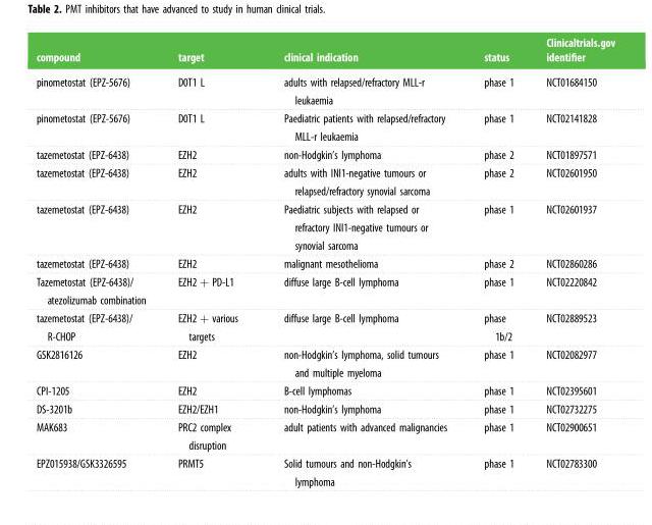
<table><thead><tr><td>compound</td><td>target</td><td>clinical indication</td><td>status</td><td>Clinicaltrials.gov identifier</td></tr></thead><tbody><tr><td>pinometostat (EPZ-5676)</td><td>D0T1 L</td><td>adults with relapsed/refractory MLL-r leukaemia</td><td>phase 1</td><td>NCT01684150</td></tr><tr><td>pinometostat (EPZ-5676)</td><td>D0T1 L</td><td>Paediatric patients with relapsed/refractory MLL-r leukaemia</td><td>phase 1</td><td>NCT02141828</td></tr><tr><td>tazemetostat (EPZ-6438)</td><td>EZH2</td><td>non-Hodgkin’s lymphoma</td><td>phase 2</td><td>NCT01897571</td></tr><tr><td>tazemetostat (EPZ-6438)</td><td>EZH2</td><td>adults with INI1-negative tumours or relapsed/refractory synovial sarcoma</td><td>phase 2</td><td>NCT02601950</td></tr><tr><td>tazemetostat (EPZ-6438)</td><td>EZH2</td><td>Paediatric subjects with relapsed or refractory INI1-negative tumours or synovial sarcoma</td><td>phase 1</td><td>NCT02601937</td></tr><tr><td>tazemetostat (EPZ-6438)</td><td>EZH2</td><td>malignant mesothelioma</td><td>phase 2</td><td>NCT02860286</td></tr><tr><td>Tazemetostat (EPZ-6438)/ atezolizumab combination</td><td>EZH2 + PD-L1</td><td>diffuse large B-cell lymphoma</td><td>phase 1</td><td>NCT02220842</td></tr><tr><td>tazemetostat (EPZ-6438)/ R-CHOP</td><td>EZH2 + various targets</td><td>diffuse large B-cell lymphoma</td><td>phase 1b/2</td><td>NCT02889523</td></tr><tr><td>GSK2816126</td><td>EZH2</td><td>non-Hodgkin’s lymphoma, solid tumours and multiple myeloma</td><td>phase 1</td><td>NCT02082977</td></tr><tr><td>CPI-1205</td><td>EZH2</td><td>B-cell lymphomas</td><td>phase 1</td><td>NCT02395601</td></tr><tr><td>DS-3201b</td><td>EZH2/EZH1</td><td>non-Hodgkin’s lymphoma</td><td>phase 1</td><td>NCT02732275</td></tr><tr><td>MAK683</td><td>PRC2 complex disruption</td><td>adult patients with advanced malignancies</td><td>phase 1</td><td>NCT02900651</td></tr><tr><td>EPZ015938/GSK3326595</td><td>PRMT5</td><td>Solid tumours and non-Hodgkin’s lymphoma</td><td>phase 1</td><td>NCT02783300</td></tr></tbody></table>